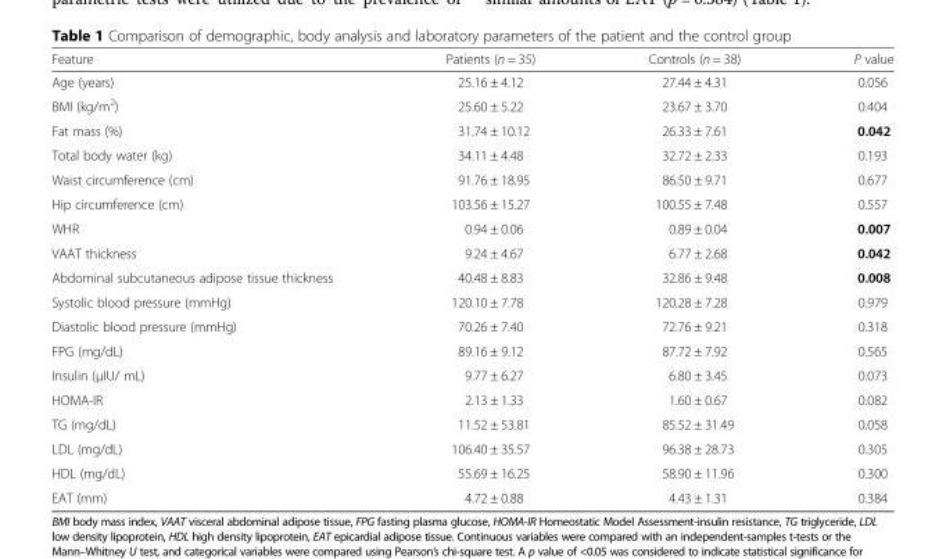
<table><thead><tr><td>Feature</td><td>Patients (n = 35)</td><td>Controls (n = 38)</td><td>P value</td></tr></thead><tbody><tr><td>Age (years)</td><td>25.16 ± 4.12</td><td>27.44 ± 4.31</td><td>0.056</td></tr><tr><td>BMI (kg/m<sup>2</sup>)</td><td>25.60 ± 5.22</td><td>23.67 ± 3.70</td><td>0.404</td></tr><tr><td>Fat mass (%)</td><td>31.74 ± 10.12</td><td>26.33 ± 7.61</td><td>0.042</td></tr><tr><td>Total body water (kg)</td><td>34.11 ± 4.48</td><td>32.72 ± 2.33</td><td>0.193</td></tr><tr><td>Waist circumference (cm)</td><td>91.76 ± 18.95</td><td>86.50 ± 9.71</td><td>0.677</td></tr><tr><td>Hip circumference (cm)</td><td>103.56 ± 15.27</td><td>100.55 ± 7.48</td><td>0.557</td></tr><tr><td>WHR</td><td>0.94 ± 0.06</td><td>0.89 ± 0.04</td><td>0.007</td></tr><tr><td>VAAT thickness</td><td>9.24 ± 4.67</td><td>6.77 ± 2.68</td><td>0.042</td></tr><tr><td>Abdominal subcutaneous adipose tissue thickness</td><td>40.48 ± 8.83</td><td>32.86 ± 9.48</td><td>0.008</td></tr><tr><td>Systolic blood pressure (mmHg)</td><td>120.10 ± 7.78</td><td>120.28 ± 7.28</td><td>0.979</td></tr><tr><td>Diastolic blood pressure (mmHg)</td><td>70.26 ± 7.40</td><td>72.76 ± 9.21</td><td>0.318</td></tr><tr><td>FPG (mg/dL)</td><td>89.16 ± 9.12</td><td>87.72 ± 7.92</td><td>0.565</td></tr><tr><td>Insulin (μIU/ mL)</td><td>9.77 ± 6.27</td><td>6.80 ± 3.45</td><td>0.073</td></tr><tr><td>HOMA-IR</td><td>2.13 ± 1.33</td><td>1.60 ± 0.67</td><td>0.082</td></tr><tr><td>TG (mg/dL)</td><td>11.52 ± 53.81</td><td>85.52 ± 31.49</td><td>0.058</td></tr><tr><td>LDL (mg/dL)</td><td>106.40 ± 35.57</td><td>96.38 ± 28.73</td><td>0.305</td></tr><tr><td>HDL (mg/dL)</td><td>55.69 ± 16.25</td><td>58.90 ± 11.96</td><td>0.300</td></tr><tr><td>EAT (mm)</td><td>4.72 ± 0.88</td><td>4.43 ± 1.31</td><td>0.384</td></tr></tbody></table>